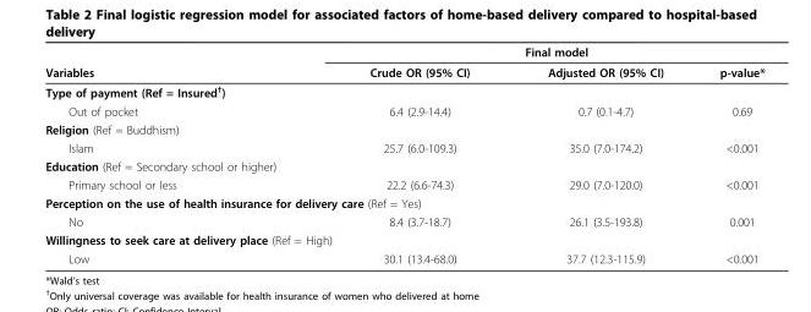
<table><thead><tr><td rowspan="2">Variables</td><td colspan="3">Final model</td></tr><tr><td>Crude OR (95% CI)</td><td>Adjusted OR (95% CI)</td><td>p-value*</td></tr></thead><tbody><tr><td colspan="4">Type of payment (Ref = Insured<sup>†</sup>)</td></tr><tr><td>Out of pocket</td><td>6.4 (2.9-14.4)</td><td>0.7 (0.1-4.7)</td><td>0.69</td></tr><tr><td colspan="4">Religion (Ref = Buddhism)</td></tr><tr><td>Islam</td><td>25.7 (6.0-109.3)</td><td>35.0 (7.0-174.2)</td><td>&lt;0.001</td></tr><tr><td colspan="4">Education (Ref = Secondary school or higher)</td></tr><tr><td>Primary school or less</td><td>22.2 (6.6-74.3)</td><td>29.0 (7.0-120.0)</td><td>&lt;0.001</td></tr><tr><td colspan="4">Perception on the use of health insurance for delivery care (Ref = Yes)</td></tr><tr><td>No</td><td>8.4 (3.7-18.7)</td><td>26.1 (3.5-193.8)</td><td>0.001</td></tr><tr><td colspan="4">Willingness to seek care at delivery place (Ref = High)</td></tr><tr><td>Low</td><td>30.1 (13.4-68.0)</td><td>37.7 (12.3-115.9)</td><td>&lt;0.001</td></tr></tbody></table>